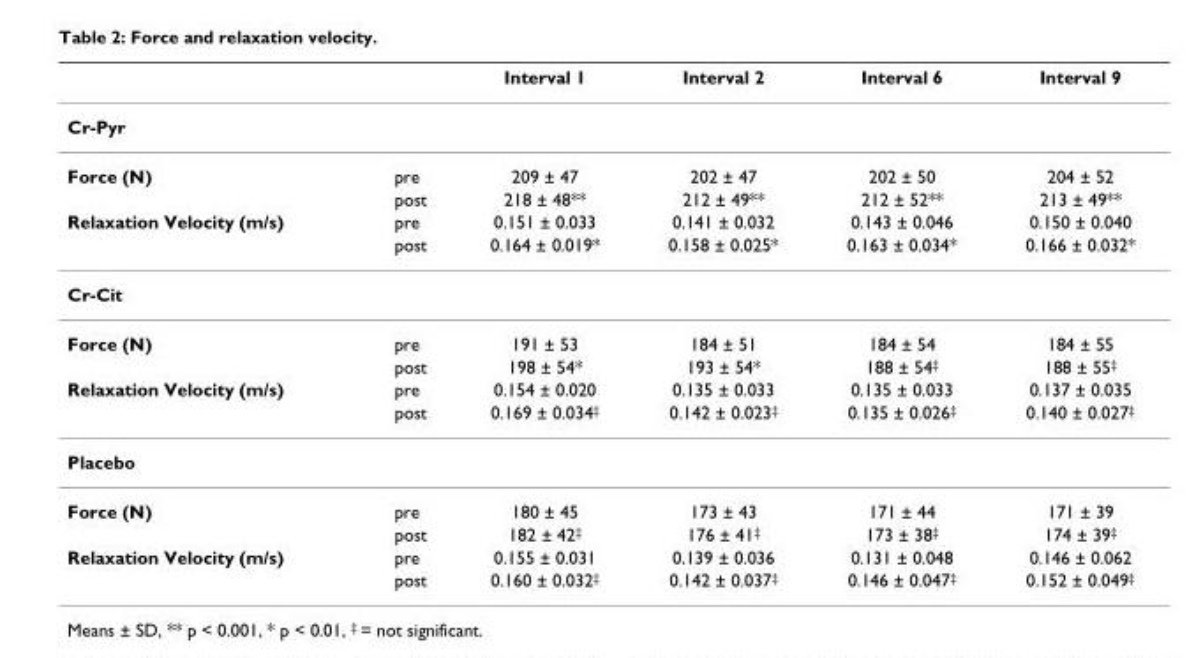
<table><thead><tr><td></td><td></td><td>Interval 1</td><td>Interval 2</td><td>Interval 6</td><td>Interval 9</td></tr></thead><tbody><tr><td colspan="6">Cr-Pyr</td></tr><tr><td rowspan="2">Force (N)</td><td>pre</td><td>209 ± 47</td><td>202 ± 47</td><td>202 ± 50</td><td>204 ± 52</td></tr><tr><td>post</td><td>218 ± 48**</td><td>212 ± 49**</td><td>212 ± 52**</td><td>213 ± 49**</td></tr><tr><td rowspan="2">Relaxation Velocity (m/s)</td><td>pre</td><td>0.151 ± 0.033</td><td>0.141 ± 0.032</td><td>0.143 ± 0.046</td><td>0.150 ± 0.040</td></tr><tr><td>post</td><td>0.164 ± 0.019*</td><td>0.158 ± 0.025*</td><td>0.163 ± 0.034*</td><td>0.166 ± 0.032*</td></tr><tr><td colspan="6">Cr-Cit</td></tr><tr><td rowspan="2">Force (N)</td><td>pre</td><td>191 ± 53</td><td>184 ± 51</td><td>184 ± 54</td><td>184 ± 55</td></tr><tr><td>post</td><td>198 ± 54*</td><td>193 ± 54*</td><td>188 ± 54<sup>‡</sup></td><td>188 ± 55<sup>‡</sup></td></tr><tr><td rowspan="2">Relaxation Velocity (m/s)</td><td>pre</td><td>0.154 ± 0.020</td><td>0.135 ± 0.033</td><td>0.135 ± 0.033</td><td>0.137 ± 0.035</td></tr><tr><td>post</td><td>0.169 ± 0.034<sup>‡</sup></td><td>0.142 ± 0.023<sup>‡</sup></td><td>0.135 ± 0.026<sup>‡</sup></td><td>0.140 ± 0.027<sup>‡</sup></td></tr><tr><td colspan="6">Placebo</td></tr><tr><td rowspan="2">Force (N)</td><td>pre</td><td>180 ± 45</td><td>173 ± 43</td><td>171 ± 44</td><td>171 ± 39</td></tr><tr><td>post</td><td>182 ± 42<sup>‡</sup></td><td>176 ± 41<sup>‡</sup></td><td>173 ± 38<sup>‡</sup></td><td>174 ± 39<sup>‡</sup></td></tr><tr><td rowspan="2">Relaxation Velocity (m/s)</td><td>pre</td><td>0.155 ± 0.031</td><td>0.139 ± 0.036</td><td>0.131 ± 0.048</td><td>0.146 ± 0.062</td></tr><tr><td>post</td><td>0.160 ± 0.032<sup>‡</sup></td><td>0.142 ± 0.037<sup>‡</sup></td><td>0.146 ± 0.047<sup>‡</sup></td><td>0.152 ± 0.049<sup>‡</sup></td></tr></tbody></table>